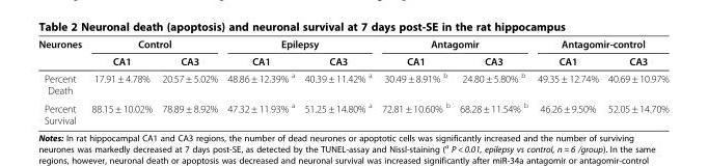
<table><thead><tr><td rowspan="2">Neurones</td><td colspan="2">Control</td><td colspan="2">Epilepsy</td><td colspan="2">Antagomir</td><td colspan="2">Antagomir-control</td></tr><tr><td>CA1</td><td>CA3</td><td>CA1</td><td>CA3</td><td>CA1</td><td>CA3</td><td>CA1</td><td>CA3</td></tr></thead><tbody><tr><td>Percent Death</td><td>17.91 ± 4.78%</td><td>20.57 ± 5.02%</td><td>48.86 ± 12.39% a</td><td>40.39 ± 11.42% a</td><td>30.49 ± 8.91% b</td><td>24.80 ± 5.80% b</td><td>49.35 ± 12.74%</td><td>40.69 ± 10.97%</td></tr><tr><td>Percent Survival</td><td>88.15 ± 10.02%</td><td>78.89 ± 8.92%</td><td>47.32 ± 11.93% a</td><td>51.25 ± 14.80% a</td><td>72.81 ± 10.60% b</td><td>68.28 ± 11.54% b</td><td>46.26 ± 9.50%</td><td>52.05 ± 14.70%</td></tr></tbody></table>